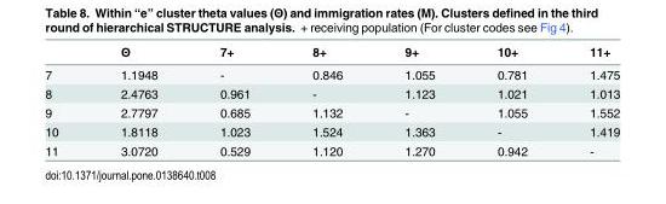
<table><thead><tr><td></td><td>Θ</td><td>7+</td><td>8+</td><td>9+</td><td>10+</td><td>11+</td></tr></thead><tbody><tr><td>7</td><td>1.1948</td><td>-</td><td>0.846</td><td>1.055</td><td>0.781</td><td>1.475</td></tr><tr><td>8</td><td>2.4763</td><td>0.961</td><td>-</td><td>1.123</td><td>1.021</td><td>1.013</td></tr><tr><td>9</td><td>2.7797</td><td>0.685</td><td>1.132</td><td>-</td><td>1.055</td><td>1.552</td></tr><tr><td>10</td><td>1.8118</td><td>1.023</td><td>1.524</td><td>1.363</td><td>-</td><td>1.419</td></tr><tr><td>11</td><td>3.0720</td><td>0.529</td><td>1.120</td><td>1.270</td><td>0.942</td><td>-</td></tr></tbody></table>